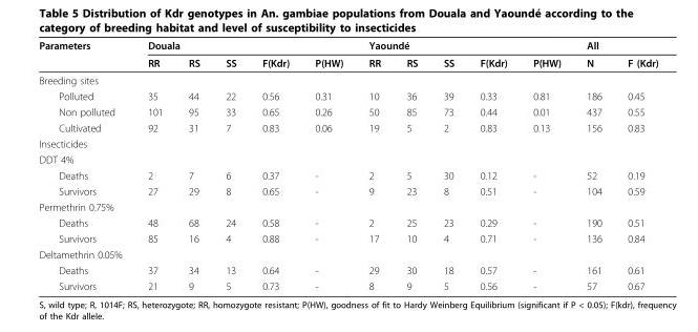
<table><thead><tr><td rowspan="2">Parameters</td><td colspan="4">Douala</td><td rowspan="2">P(HW)</td><td colspan="4">Yaoundé</td><td rowspan="2">P(HW)</td><td colspan="2">All</td></tr><tr><td>RR</td><td>RS</td><td>SS</td><td>F(Kdr)</td><td>RR</td><td>RS</td><td>SS</td><td>F(Kdr)</td><td>N</td><td>F (Kdr)</td></tr></thead><tbody><tr><td colspan="13">Breeding sites</td></tr><tr><td>Polluted</td><td>35</td><td>44</td><td>22</td><td>0.56</td><td>0.31</td><td>10</td><td>36</td><td>39</td><td>0.33</td><td>0.81</td><td>186</td><td>0.45</td></tr><tr><td>Non polluted</td><td>101</td><td>95</td><td>33</td><td>0.65</td><td>0.26</td><td>50</td><td>85</td><td>73</td><td>0.44</td><td>0.01</td><td>437</td><td>0.55</td></tr><tr><td>Cultivated</td><td>92</td><td>31</td><td>7</td><td>0.83</td><td>0.06</td><td>19</td><td>5</td><td>2</td><td>0.83</td><td>0.13</td><td>156</td><td>0.83</td></tr><tr><td colspan="13">Insecticides</td></tr><tr><td colspan="13">DDT 4%</td></tr><tr><td>Deaths</td><td>2</td><td>7</td><td>6</td><td>0.37</td><td>-</td><td>2</td><td>5</td><td>30</td><td>0.12</td><td>-</td><td>52</td><td>0.19</td></tr><tr><td>Survivors</td><td>27</td><td>29</td><td>8</td><td>0.65</td><td>-</td><td>9</td><td>23</td><td>8</td><td>0.51</td><td>-</td><td>104</td><td>0.59</td></tr><tr><td colspan="13">Permethrin 0.75%</td></tr><tr><td>Deaths</td><td>48</td><td>68</td><td>24</td><td>0.58</td><td>-</td><td>2</td><td>25</td><td>23</td><td>0.29</td><td>-</td><td>190</td><td>0.51</td></tr><tr><td>Survivors</td><td>85</td><td>16</td><td>4</td><td>0.88</td><td>-</td><td>17</td><td>10</td><td>4</td><td>0.71</td><td>-</td><td>136</td><td>0.84</td></tr><tr><td colspan="13">Deltamethrin 0.05%</td></tr><tr><td>Deaths</td><td>37</td><td>34</td><td>13</td><td>0.64</td><td>-</td><td>29</td><td>30</td><td>18</td><td>0.57</td><td>-</td><td>161</td><td>0.61</td></tr><tr><td>Survivors</td><td>21</td><td>9</td><td>5</td><td>0.73</td><td>-</td><td>8</td><td>9</td><td>5</td><td>0.56</td><td>-</td><td>57</td><td>0.67</td></tr></tbody></table>